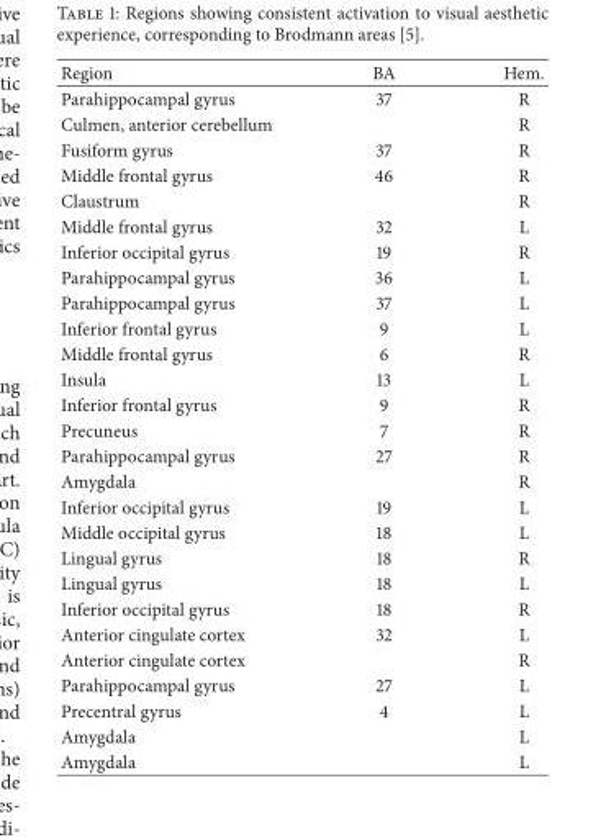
<table><thead><tr><td>Region</td><td>BA</td><td>Hem.</td></tr></thead><tbody><tr><td>Parahippocampal gyrus</td><td>37</td><td>R</td></tr><tr><td>Culmen, anterior cerebellum</td><td></td><td>R</td></tr><tr><td>Fusiform gyrus</td><td>37</td><td>R</td></tr><tr><td>Middle frontal gyrus</td><td>46</td><td>R</td></tr><tr><td>Claustrum</td><td></td><td>R</td></tr><tr><td>Middle frontal gyrus</td><td>32</td><td>L</td></tr><tr><td>Inferior occipital gyrus</td><td>19</td><td>R</td></tr><tr><td>Parahippocampal gyrus</td><td>36</td><td>L</td></tr><tr><td>Parahippocampal gyrus</td><td>37</td><td>L</td></tr><tr><td>Inferior frontal gyrus</td><td>9</td><td>L</td></tr><tr><td>Middle frontal gyrus</td><td>6</td><td>R</td></tr><tr><td>Insula</td><td>13</td><td>L</td></tr><tr><td>Inferior frontal gyrus</td><td>9</td><td>R</td></tr><tr><td>Precuneus</td><td>7</td><td>R</td></tr><tr><td>Parahippocampal gyrus</td><td>27</td><td>R</td></tr><tr><td>Amygdala</td><td></td><td>R</td></tr><tr><td>Inferior occipital gyrus</td><td>19</td><td>L</td></tr><tr><td>Middle occipital gyrus</td><td>18</td><td>L</td></tr><tr><td>Lingual gyrus</td><td>18</td><td>R</td></tr><tr><td>Lingual gyrus</td><td>18</td><td>L</td></tr><tr><td>Inferior occipital gyrus</td><td>18</td><td>R</td></tr><tr><td>Anterior cingulate cortex</td><td>32</td><td>L</td></tr><tr><td>Anterior cingulate cortex</td><td></td><td>R</td></tr><tr><td>Parahippocampal gyrus</td><td>27</td><td>L</td></tr><tr><td>Precentral gyrus</td><td>4</td><td>L</td></tr><tr><td>Amygdala</td><td></td><td>L</td></tr><tr><td>Amygdala</td><td></td><td>L</td></tr></tbody></table>